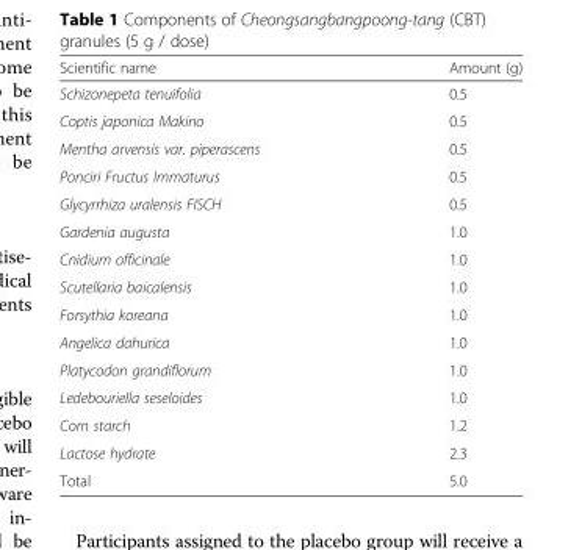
<table><thead><tr><td>Scientific name</td><td>Amount (g)</td></tr></thead><tbody><tr><td>Schizonepeta tenuifolia</td><td>0.5</td></tr><tr><td>Coptis japonica Makino</td><td>0.5</td></tr><tr><td>Mentha arvensis var. piperascens</td><td>0.5</td></tr><tr><td>Ponciri Fructus Immaturus</td><td>0.5</td></tr><tr><td>Glycyrrhiza uralensis FISCH</td><td>0.5</td></tr><tr><td>Gardenia augusta</td><td>1.0</td></tr><tr><td>Cnidium officinale</td><td>1.0</td></tr><tr><td>Scutellaria baicalensis</td><td>1.0</td></tr><tr><td>Forsythia koreana</td><td>1.0</td></tr><tr><td>Angelica dahurica</td><td>1.0</td></tr><tr><td>Platycodon grandiflorum</td><td>1.0</td></tr><tr><td>Ledebouriella seseloides</td><td>1.0</td></tr><tr><td>Corn starch</td><td>1.2</td></tr><tr><td>Lactose hydrate</td><td>2.3</td></tr><tr><td>Total</td><td>5.0</td></tr></tbody></table>